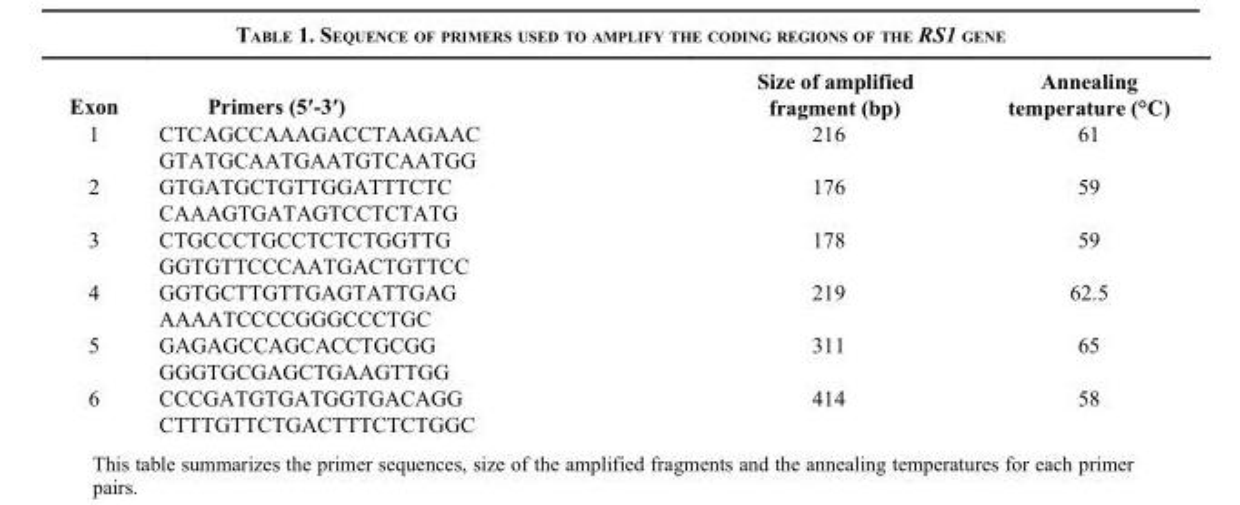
<table><thead><tr><td>Exon</td><td>Primers (5′-3′)</td><td>Size of amplified fragment (bp)</td><td>Annealing temperature (°C)</td></tr></thead><tbody><tr><td rowspan="2">1</td><td>CTCAGCCAAAGACCTAAGAAC</td><td>216</td><td>61</td></tr><tr><td>GTATGCAATGAATGTCAATGG</td><td></td><td></td></tr><tr><td rowspan="2">2</td><td>GTGATGCTGTTGGATTTCTC</td><td>176</td><td>59</td></tr><tr><td>CAAAGTGATAGTCCTCTATG</td><td></td><td></td></tr><tr><td rowspan="2">3</td><td>CTGCCCTGCCTCTCTGGTTG</td><td>178</td><td>59</td></tr><tr><td>GGTGTTCCCAATGACTGTTCC</td><td></td><td></td></tr><tr><td rowspan="2">4</td><td>GGTGCTTGTTGAGTATTGAG</td><td>219</td><td>62.5</td></tr><tr><td>AAAATCCCCGGGCCCTGC</td><td></td><td></td></tr><tr><td rowspan="2">5</td><td>GAGAGCCAGCACCTGCGG</td><td>311</td><td>65</td></tr><tr><td>GGGTGCGAGCTGAAGTTGG</td><td></td><td></td></tr><tr><td rowspan="2">6</td><td>CCCGATGTGATGGTGACAGG</td><td>414</td><td>58</td></tr><tr><td>CTTTGTTCTGACTTTCTCTGGC</td><td></td><td></td></tr></tbody></table>